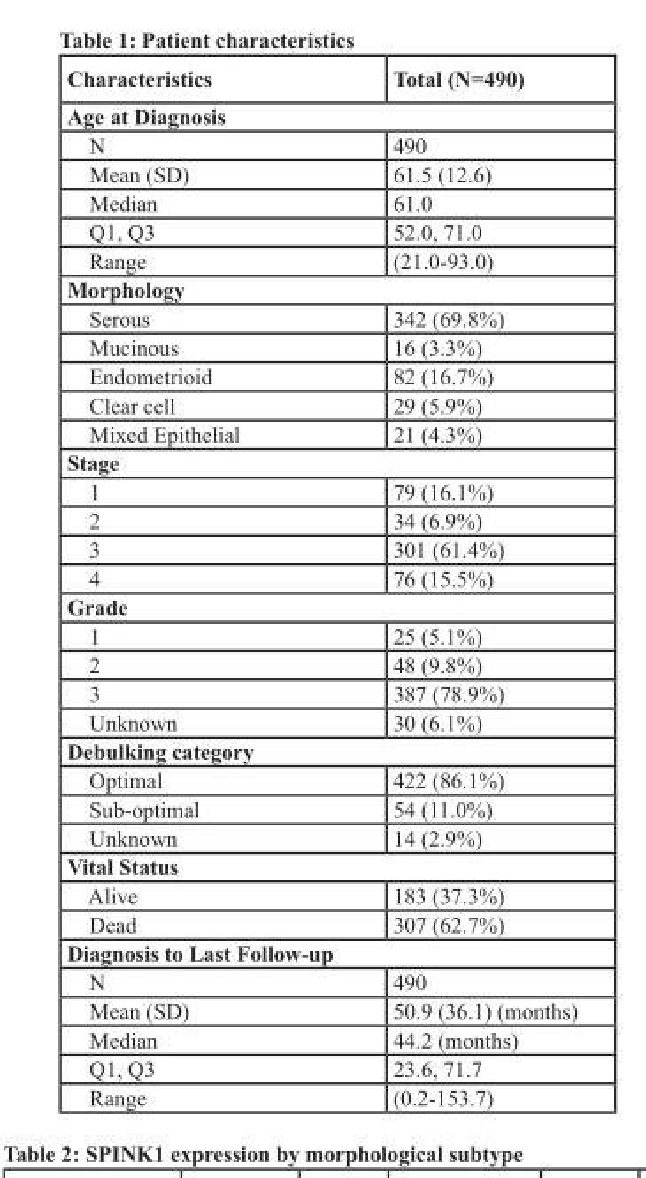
<table><thead><tr><td>Characteristics</td><td>Total (N=490)</td></tr></thead><tbody><tr><td colspan="2">Age at Diagnosis</td></tr><tr><td>N</td><td>490</td></tr><tr><td>Mean (SD)</td><td>61.5 (12.6)</td></tr><tr><td>Median</td><td>61.0</td></tr><tr><td>Q1, Q3</td><td>52.0, 71.0</td></tr><tr><td>Range</td><td>(21.0-93.0)</td></tr><tr><td colspan="2">Morphology</td></tr><tr><td>Serous</td><td>342 (69.8%)</td></tr><tr><td>Mucinous</td><td>16 (3.3%)</td></tr><tr><td>Endometrioid</td><td>82 (16.7%)</td></tr><tr><td>Clear cell</td><td>29 (5.9%)</td></tr><tr><td>Mixed Epithelial</td><td>21 (4.3%)</td></tr><tr><td colspan="2">Stage</td></tr><tr><td>1</td><td>79 (16.1%)</td></tr><tr><td>2</td><td>34 (6.9%)</td></tr><tr><td>3</td><td>301 (61.4%)</td></tr><tr><td>4</td><td>76 (15.5%)</td></tr><tr><td colspan="2">Grade</td></tr><tr><td>1</td><td>25 (5.1%)</td></tr><tr><td>2</td><td>48 (9.8%)</td></tr><tr><td>3</td><td>387 (78.9%)</td></tr><tr><td>Unknown</td><td>30 (6.1%)</td></tr><tr><td colspan="2">Debulking category</td></tr><tr><td>Optimal</td><td>422 (86.1%)</td></tr><tr><td>Sub-optimal</td><td>54 (11.0%)</td></tr><tr><td>Unknown</td><td>14 (2.9%)</td></tr><tr><td colspan="2">Vital Status</td></tr><tr><td>Alive</td><td>183 (37.3%)</td></tr><tr><td>Dead</td><td>307 (62.7%)</td></tr><tr><td colspan="2">Diagnosis to Last Follow-up</td></tr><tr><td>N</td><td>490</td></tr><tr><td>Mean (SD)</td><td>50.9 (36.1) (months)</td></tr><tr><td>Median</td><td>44.2 (months)</td></tr><tr><td>Q1, Q3</td><td>23.6, 71.7</td></tr><tr><td>Range</td><td>(0.2-153.7)</td></tr></tbody></table>